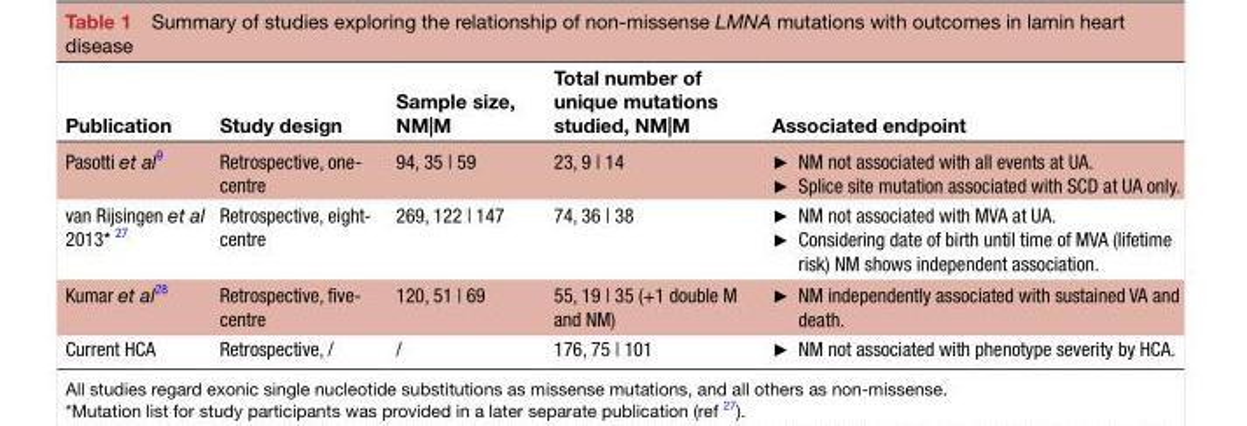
<table><thead><tr><td>Publication</td><td>Study design</td><td>Sample size, NM|M</td><td>Total number of unique mutations studied, NM|M</td><td>Associated endpoint</td></tr></thead><tbody><tr><td>Pasotti et al9</td><td>Retrospective, one- centre</td><td>94, 35 | 59</td><td>23, 9 | 14</td><td>► NM not associated with all events at UA. ► Splice site mutation associated with SCD at UA only.</td></tr><tr><td>van Rijsingen et al 2013* 27</td><td>Retrospective, eight- centre</td><td>269, 122 | 147</td><td>74, 36 | 38</td><td>► NM not associated with MVA at UA. ► Considering date of birth until time of MVA (lifetime risk) NM shows independent association.</td></tr><tr><td>Kumar et al28</td><td>Retrospective, five- centre</td><td>120, 51 | 69</td><td>55, 19 | 35 (+1 double M and NM)</td><td>► NM independently associated with sustained VA and death.</td></tr><tr><td>Current HCA</td><td>Retrospective, /</td><td>/</td><td>176, 75 | 101</td><td>► NM not associated with phenotype severity by HCA.</td></tr></tbody></table>